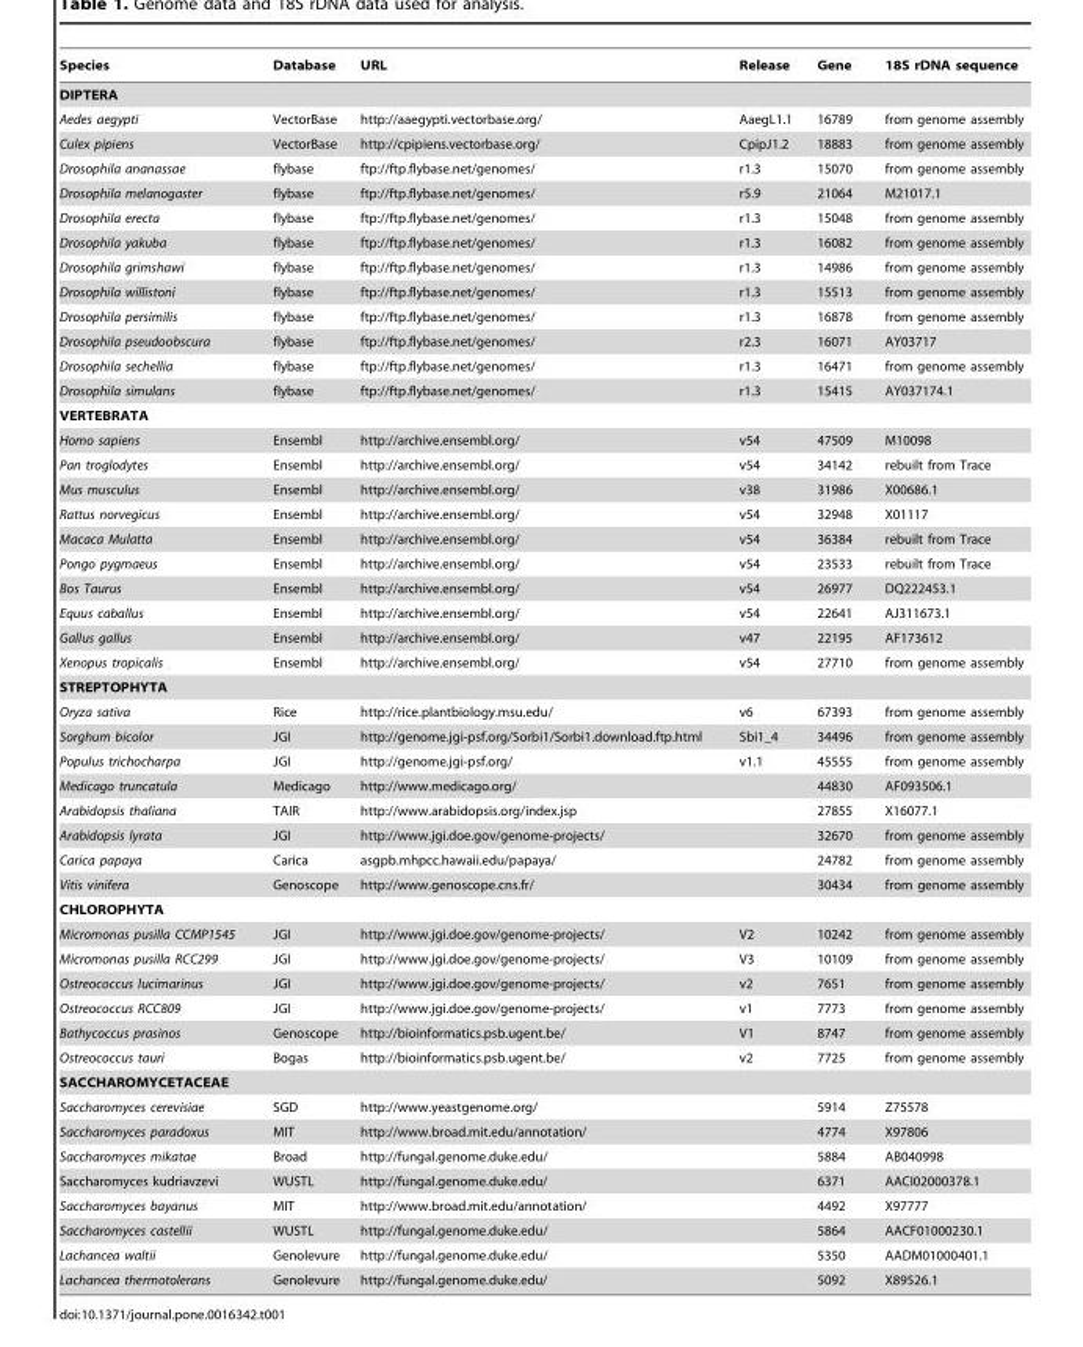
<table><thead><tr><td>Species</td><td>Database</td><td>URL</td><td>Release</td><td>Gene</td><td>18S rDNA sequence</td></tr></thead><tbody><tr><td colspan="6">DIPTERA</td></tr><tr><td>Aedes aegypti</td><td>VectorBase</td><td>http://aaegypti.vectorbase.org/</td><td>AaegL1.1</td><td>16789</td><td>from genome assembly</td></tr><tr><td>Culex pipiens</td><td>VectorBase</td><td>http://cpipiens.vectorbase.org/</td><td>CpipJ1.2</td><td>18883</td><td>from genome assembly</td></tr><tr><td>Drosophila ananassae</td><td>flybase</td><td>ftp://ftp.flybase.net/genomes/</td><td>r1.3</td><td>15070</td><td>from genome assembly</td></tr><tr><td>Drosophila melanogaster</td><td>flybase</td><td>ftp://ftp.flybase.net/genomes/</td><td>r5.9</td><td>21064</td><td>M21017.1</td></tr><tr><td>Drosophila erecta</td><td>flybase</td><td>ftp://ftp.flybase.net/genomes/</td><td>r1.3</td><td>15048</td><td>from genome assembly</td></tr><tr><td>Drosophila yakuba</td><td>flybase</td><td>ftp://ftp.flybase.net/genomes/</td><td>r1.3</td><td>16082</td><td>from genome assembly</td></tr><tr><td>Drosophila grimshawi</td><td>flybase</td><td>ftp://ftp.flybase.net/genomes/</td><td>r1.3</td><td>14986</td><td>from genome assembly</td></tr><tr><td>Drosophila willistoni</td><td>flybase</td><td>ftp://ftp.flybase.net/genomes/</td><td>r1.3</td><td>15513</td><td>from genome assembly</td></tr><tr><td>Drosophila persimilis</td><td>flybase</td><td>ftp://ftp.flybase.net/genomes/</td><td>r1.3</td><td>16878</td><td>from genome assembly</td></tr><tr><td>Drosophila pseudoobscura</td><td>flybase</td><td>ftp://ftp.flybase.net/genomes/</td><td>r2.3</td><td>16071</td><td>AY03717</td></tr><tr><td>Drosophila sechellia</td><td>flybase</td><td>ftp://ftp.flybase.net/genomes/</td><td>r1.3</td><td>16471</td><td>from genome assembly</td></tr><tr><td>Drosophila simulans</td><td>flybase</td><td>ftp://ftp.flybase.net/genomes/</td><td>r1.3</td><td>15415</td><td>AY037174.1</td></tr><tr><td colspan="6">VERTEBRATA</td></tr><tr><td>Homo sapiens</td><td>Ensembl</td><td>http://archive.ensembl.org/</td><td>v54</td><td>47509</td><td>M10098</td></tr><tr><td>Pan troglodytes</td><td>Ensembl</td><td>http://archive.ensembl.org/</td><td>v54</td><td>34142</td><td>rebuilt from Trace</td></tr><tr><td>Mus musculus</td><td>Ensembl</td><td>http://archive.ensembl.org/</td><td>v38</td><td>31986</td><td>X00686.1</td></tr><tr><td>Rattus norvegicus</td><td>Ensembl</td><td>http://archive.ensembl.org/</td><td>v54</td><td>32948</td><td>X01117</td></tr><tr><td>Macaca Mulatta</td><td>Ensembl</td><td>http://archive.ensembl.org/</td><td>v54</td><td>36384</td><td>rebuilt from Trace</td></tr><tr><td>Pongo pygmaeus</td><td>Ensembl</td><td>http://archive.ensembl.org/</td><td>v54</td><td>23533</td><td>rebuilt from Trace</td></tr><tr><td>Bos Taurus</td><td>Ensembl</td><td>http://archive.ensembl.org/</td><td>v54</td><td>26977</td><td>DQ222453.1</td></tr><tr><td>Equus caballus</td><td>Ensembl</td><td>http://archive.ensembl.org/</td><td>v54</td><td>22641</td><td>AJ311673.1</td></tr><tr><td>Gallus gallus</td><td>Ensembl</td><td>http://archive.ensembl.org/</td><td>v47</td><td>22195</td><td>AF173612</td></tr><tr><td>Xenopus tropicalis</td><td>Ensembl</td><td>http://archive.ensembl.org/</td><td>v54</td><td>27710</td><td>from genome assembly</td></tr><tr><td colspan="6">STREPTOPHYTA</td></tr><tr><td>Oryza sativa</td><td>Rice</td><td>http://rice.plantbiology.msu.edu/</td><td>v6</td><td>67393</td><td>from genome assembly</td></tr><tr><td>Sorghum bicolor</td><td>JGI</td><td>http://genome.jgi-psf.org/Sorbi1/Sorbi1.download.ftp.html</td><td>Sbi1_4</td><td>34496</td><td>from genome assembly</td></tr><tr><td>Populus trichocharpa</td><td>JGI</td><td>http://genome.jgi-psf.org/</td><td>v1.1</td><td>45555</td><td>from genome assembly</td></tr><tr><td>Medicago truncatula</td><td>Medicago</td><td>http://www.medicago.org/</td><td></td><td>44830</td><td>AF093506.1</td></tr><tr><td>Arabidopsis thaliana</td><td>TAIR</td><td>http://www.arabidopsis.org/index.jsp</td><td></td><td>27855</td><td>X16077.1</td></tr><tr><td>Arabidopsis lyrata</td><td>JGI</td><td>http://www.jgi.doe.gov/genome-projects/</td><td></td><td>32670</td><td>from genome assembly</td></tr><tr><td>Carica papaya</td><td>Carica</td><td>asgpb.mhpcc.hawaii.edu/papaya/</td><td></td><td>24782</td><td>from genome assembly</td></tr><tr><td>Vitis vinifera</td><td>Genoscope</td><td>http://www.genoscope.cns.fr/</td><td></td><td>30434</td><td>from genome assembly</td></tr><tr><td colspan="6">CHLOROPHYTA</td></tr><tr><td>Micromonas pusilla CCMP1545</td><td>JGI</td><td>http://www.jgi.doe.gov/genome-projects/</td><td>V2</td><td>10242</td><td>from genome assembly</td></tr><tr><td>Micromonas pusilla RCC299</td><td>JGI</td><td>http://www.jgi.doe.gov/genome-projects/</td><td>V3</td><td>10109</td><td>from genome assembly</td></tr><tr><td>Ostreococcus lucimarinus</td><td>JGI</td><td>http://www.jgi.doe.gov/genome-projects/</td><td>v2</td><td>7651</td><td>from genome assembly</td></tr><tr><td>Ostreococcus RCC809</td><td>JGI</td><td>http://www.jgi.doe.gov/genome-projects/</td><td>v1</td><td>7773</td><td>from genome assembly</td></tr><tr><td>Bathycoccus prasinos</td><td>Genoscope</td><td>http://bioinformatics.psb.ugent.be/</td><td>V1</td><td>8747</td><td>from genome assembly</td></tr><tr><td>Ostreococcus tauri</td><td>Bogas</td><td>http://bioinformatics.psb.ugent.be/</td><td>v2</td><td>7725</td><td>from genome assembly</td></tr><tr><td colspan="6">SACCHAROMYCETACEAE</td></tr><tr><td>Saccharomyces cerevisiae</td><td>SGD</td><td>http://www.yeastgenome.org/</td><td></td><td>5914</td><td>Z75578</td></tr><tr><td>Saccharomyces paradoxus</td><td>MIT</td><td>http://www.broad.mit.edu/annotation/</td><td></td><td>4774</td><td>X97806</td></tr><tr><td>Saccharomyces mikatae</td><td>Broad</td><td>http://fungal.genome.duke.edu/</td><td></td><td>5884</td><td>AB040998</td></tr><tr><td>Saccharomyces kudriavzevi</td><td>WUSTL</td><td>http://fungal.genome.duke.edu/</td><td></td><td>6371</td><td>AACI02000378.1</td></tr><tr><td>Saccharomyces bayanus</td><td>MIT</td><td>http://www.broad.mit.edu/annotation/</td><td></td><td>4492</td><td>X97777</td></tr><tr><td>Saccharomyces castellii</td><td>WUSTL</td><td>http://fungal.genome.duke.edu/</td><td></td><td>5864</td><td>AACF01000230.1</td></tr><tr><td>Lachancea waltii</td><td>Genolevure</td><td>http://fungal.genome.duke.edu/</td><td></td><td>5350</td><td>AADM01000401.1</td></tr><tr><td>Lachancea thermotolerans</td><td>Genolevure</td><td>http://fungal.genome.duke.edu/</td><td></td><td>5092</td><td>X89526.1</td></tr></tbody></table>